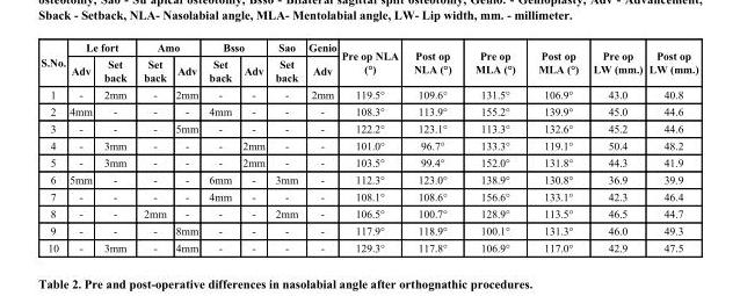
<table><thead><tr><td rowspan="2">S.No.</td><td colspan="2">Le fort</td><td colspan="2">Amo</td><td colspan="2">Bsso</td><td rowspan="2">Sao Set back</td><td rowspan="2">Genio Adv</td><td rowspan="2">Pre op NLA (°)</td><td rowspan="2">Post op NLA (°)</td><td rowspan="2">Pre op MLA (°)</td><td rowspan="2">Post op MLA (°)</td><td rowspan="2">Pre op LW (mm.)</td><td rowspan="2">Post op LW (mm.)</td></tr><tr><td>Adv</td><td>Set back</td><td>Set back</td><td>Adv</td><td>Set back</td><td>Adv</td></tr></thead><tbody><tr><td>1</td><td>-</td><td>2mm</td><td>-</td><td>2mm</td><td>-</td><td>-</td><td>-</td><td>2mm</td><td>119.5°</td><td>109.6°</td><td>131.5°</td><td>106.9°</td><td>43.0</td><td>40.8</td></tr><tr><td>2</td><td>4mm</td><td>-</td><td>-</td><td>-</td><td>4mm</td><td>-</td><td>-</td><td>-</td><td>108.3°</td><td>113.9°</td><td>155.2°</td><td>139.9°</td><td>45.0</td><td>44.6</td></tr><tr><td>3</td><td>-</td><td>-</td><td>-</td><td>5mm</td><td>-</td><td>-</td><td>-</td><td>-</td><td>122.2°</td><td>123.1°</td><td>113.3°</td><td>132.6°</td><td>45.2</td><td>44.6</td></tr><tr><td>4</td><td>-</td><td>3mm</td><td>-</td><td>-</td><td>-</td><td>2mm</td><td>-</td><td>-</td><td>101.0°</td><td>96.7°</td><td>133.3°</td><td>119.1°</td><td>50.4</td><td>48.2</td></tr><tr><td>5</td><td>-</td><td>3mm</td><td>-</td><td>-</td><td>-</td><td>2mm</td><td>-</td><td>-</td><td>103.5°</td><td>99.4°</td><td>152.0°</td><td>131.8°</td><td>44.3</td><td>41.9</td></tr><tr><td>6</td><td>5mm</td><td>-</td><td>-</td><td>-</td><td>6mm</td><td>-</td><td>3mm</td><td>-</td><td>112.3°</td><td>123.0°</td><td>138.9°</td><td>130.8°</td><td>36.9</td><td>39.9</td></tr><tr><td>7</td><td>-</td><td>-</td><td>-</td><td>-</td><td>4mm</td><td>-</td><td>-</td><td>-</td><td>108.1°</td><td>108.6°</td><td>156.6°</td><td>133.1°</td><td>42.3</td><td>46.4</td></tr><tr><td>8</td><td>-</td><td>-</td><td>2mm</td><td>-</td><td>-</td><td>-</td><td>2mm</td><td>-</td><td>106.5°</td><td>100.7°</td><td>128.9°</td><td>113.5°</td><td>46.5</td><td>44.7</td></tr><tr><td>9</td><td>-</td><td>-</td><td>-</td><td>8mm</td><td>-</td><td>-</td><td>-</td><td>-</td><td>117.9°</td><td>118.9°</td><td>100.1°</td><td>131.3°</td><td>46.0</td><td>49.3</td></tr><tr><td>10</td><td>-</td><td>3mm</td><td>-</td><td>4mm</td><td>-</td><td>-</td><td>-</td><td>-</td><td>129.3°</td><td>117.8°</td><td>106.9°</td><td>117.0°</td><td>42.9</td><td>47.5</td></tr></tbody></table>